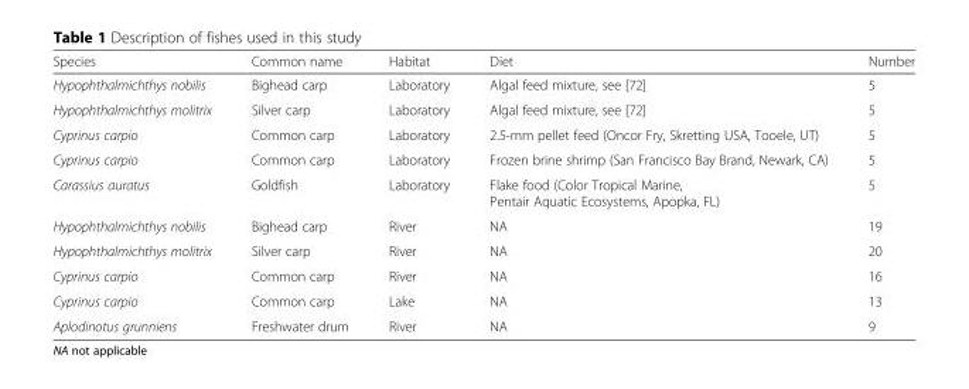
<table><thead><tr><td>Species</td><td>Common name</td><td>Habitat</td><td>Diet</td><td>Number</td></tr></thead><tbody><tr><td>Hypophthalmichthys nobilis</td><td>Bighead carp</td><td>Laboratory</td><td>Algal feed mixture, see [72]</td><td>5</td></tr><tr><td>Hypophthalmichthys molitrix</td><td>Silver carp</td><td>Laboratory</td><td>Algal feed mixture, see [72]</td><td>5</td></tr><tr><td>Cyprinus carpio</td><td>Common carp</td><td>Laboratory</td><td>2.5-mm pellet feed (Oncor Fry, Skretting USA, Tooele, UT)</td><td>5</td></tr><tr><td>Cyprinus carpio</td><td>Common carp</td><td>Laboratory</td><td>Frozen brine shrimp (San Francisco Bay Brand, Newark, CA)</td><td>5</td></tr><tr><td>Carassius auratus</td><td>Goldfish</td><td>Laboratory</td><td>Flake food (Color Tropical Marine, Pentair Aquatic Ecosystems, Apopka, FL)</td><td>5</td></tr><tr><td>Hypophthalmichthys nobilis</td><td>Bighead carp</td><td>River</td><td>NA</td><td>19</td></tr><tr><td>Hypophthalmichthys molitrix</td><td>Silver carp</td><td>River</td><td>NA</td><td>20</td></tr><tr><td>Cyprinus carpio</td><td>Common carp</td><td>River</td><td>NA</td><td>16</td></tr><tr><td>Cyprinus carpio</td><td>Common carp</td><td>Lake</td><td>NA</td><td>13</td></tr><tr><td>Aplodinotus grunniens</td><td>Freshwater drum</td><td>River</td><td>NA</td><td>9</td></tr></tbody></table>